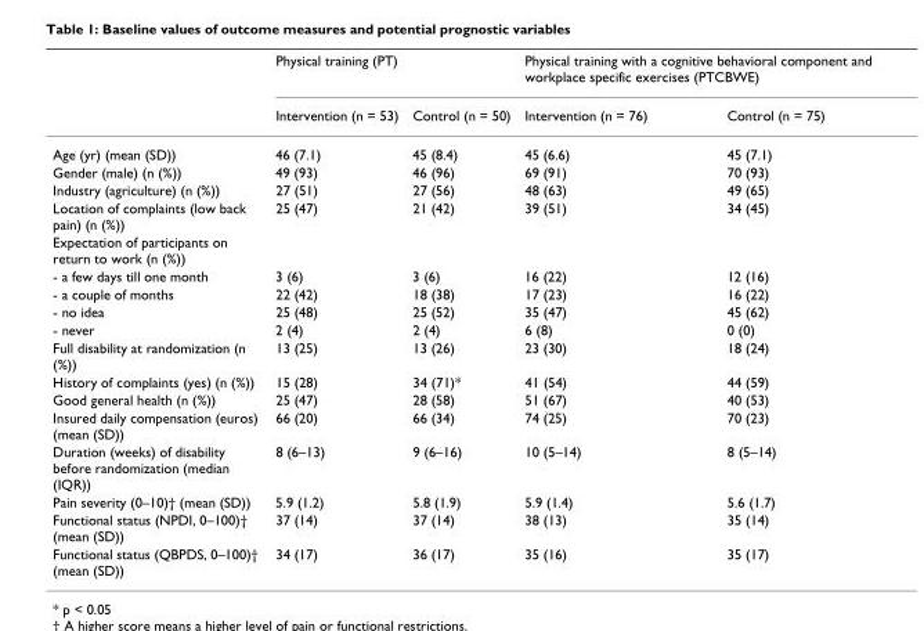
<table><thead><tr><td rowspan="2"></td><td colspan="2">Physical training (PT)</td><td colspan="2">Physical training with a cognitive behavioral component and workplace specific exercises (PTCBWE)</td></tr><tr><td>Intervention (n = 53)</td><td>Control (n = 50)</td><td>Intervention (n = 76)</td><td>Control (n = 75)</td></tr></thead><tbody><tr><td>Age (yr) (mean (SD))</td><td>46 (7.1)</td><td>45 (8.4)</td><td>45 (6.6)</td><td>45 (7.1)</td></tr><tr><td>Gender (male) (n (%))</td><td>49 (93)</td><td>46 (96)</td><td>69 (91)</td><td>70 (93)</td></tr><tr><td>Industry (agriculture) (n (%))</td><td>27 (51)</td><td>27 (56)</td><td>48 (63)</td><td>49 (65)</td></tr><tr><td>Location of complaints (low back pain) (n (%))</td><td>25 (47)</td><td>21 (42)</td><td>39 (51)</td><td>34 (45)</td></tr><tr><td colspan="5">Expectation of participants on return to work (n (%))</td></tr><tr><td>- a few days till one month</td><td>3 (6)</td><td>3 (6)</td><td>16 (22)</td><td>12 (16)</td></tr><tr><td>- a couple of months</td><td>22 (42)</td><td>18 (38)</td><td>17 (23)</td><td>16 (22)</td></tr><tr><td>- no idea</td><td>25 (48)</td><td>25 (52)</td><td>35 (47)</td><td>45 (62)</td></tr><tr><td>- never</td><td>2 (4)</td><td>2 (4)</td><td>6 (8)</td><td>0 (0)</td></tr><tr><td>Full disability at randomization (n (%))</td><td>13 (25)</td><td>13 (26)</td><td>23 (30)</td><td>18 (24)</td></tr><tr><td>History of complaints (yes) (n (%))</td><td>15 (28)</td><td>34 (71)*</td><td>41 (54)</td><td>44 (59)</td></tr><tr><td>Good general health (n (%))</td><td>25 (47)</td><td>28 (58)</td><td>51 (67)</td><td>40 (53)</td></tr><tr><td>Insured daily compensation (euros) (mean (SD))</td><td>66 (20)</td><td>66 (34)</td><td>74 (25)</td><td>70 (23)</td></tr><tr><td>Duration (weeks) of disability before randomization (median (IQR))</td><td>8 (6–13)</td><td>9 (6–16)</td><td>10 (5–14)</td><td>8 (5–14)</td></tr><tr><td>Pain severity (0–10)† (mean (SD))</td><td>5.9 (1.2)</td><td>5.8 (1.9)</td><td>5.9 (1.4)</td><td>5.6 (1.7)</td></tr><tr><td>Functional status (NPDI, 0–100)† (mean (SD))</td><td>37 (14)</td><td>37 (14)</td><td>38 (13)</td><td>35 (14)</td></tr><tr><td>Functional status (QBPDS, 0–100)† (mean (SD))</td><td>34 (17)</td><td>36 (17)</td><td>35 (16)</td><td>35 (17)</td></tr></tbody></table>